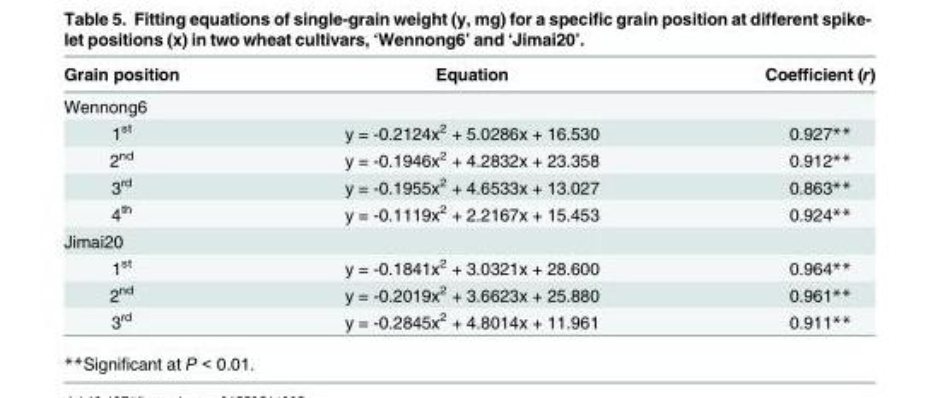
<table><thead><tr><td>Grain position</td><td>Equation</td><td>Coefficient (r)</td></tr></thead><tbody><tr><td colspan="3">Wennong6</td></tr><tr><td>1<sup>st</sup></td><td>y = -0.2124x<sup>2</sup> + 5.0286x + 16.530</td><td>0.927**</td></tr><tr><td>2<sup>nd</sup></td><td>y = -0.1946x<sup>2</sup> + 4.2832x + 23.358</td><td>0.912**</td></tr><tr><td>3<sup>rd</sup></td><td>y = -0.1955x<sup>2</sup> + 4.6533x + 13.027</td><td>0.863**</td></tr><tr><td>4<sup>th</sup></td><td>y = -0.1119x<sup>2</sup> + 2.2167x + 15.453</td><td>0.924**</td></tr><tr><td colspan="3">Jimai20</td></tr><tr><td>1<sup>st</sup></td><td>y = -0.1841x<sup>2</sup> + 3.0321x + 28.600</td><td>0.964**</td></tr><tr><td>2<sup>nd</sup></td><td>y = -0.2019x<sup>2</sup> + 3.6623x + 25.880</td><td>0.961**</td></tr><tr><td>3<sup>rd</sup></td><td>y = -0.2845x<sup>2</sup> + 4.8014x + 11.961</td><td>0.911**</td></tr></tbody></table>